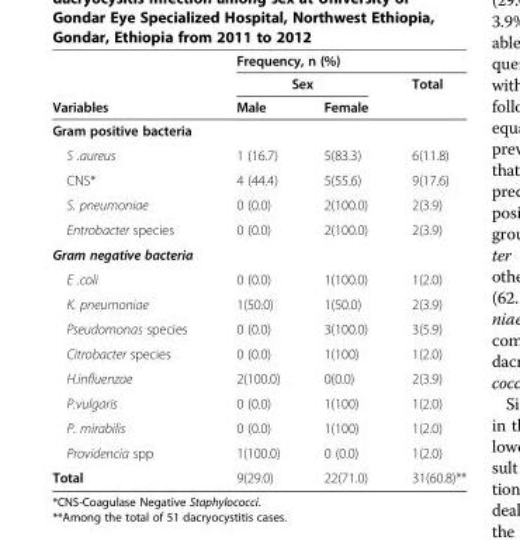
<table><thead><tr><td rowspan="3">Variables</td><td colspan="3">Frequency, n (%)</td></tr><tr><td colspan="2">Sex</td><td rowspan="2">Total</td></tr><tr><td>Male</td><td>Female</td></tr></thead><tbody><tr><td colspan="4">Gram positive bacteria</td></tr><tr><td>S .aureus</td><td>1 (16.7)</td><td>5(83.3)</td><td>6(11.8)</td></tr><tr><td>CNS*</td><td>4 (44.4)</td><td>5(55.6)</td><td>9(17.6)</td></tr><tr><td>S. pneumoniae</td><td>0 (0.0)</td><td>2(100.0)</td><td>2(3.9)</td></tr><tr><td>Entrobacter species</td><td>0 (0.0)</td><td>2(100.0)</td><td>2(3.9)</td></tr><tr><td colspan="4">Gram negative bacteria</td></tr><tr><td>E .coli</td><td>0 (0.0)</td><td>1(100.0)</td><td>1(2.0)</td></tr><tr><td>K. pneumoniae</td><td>1(50.0)</td><td>1(50.0)</td><td>2(3.9)</td></tr><tr><td>Pseudomonas species</td><td>0 (0.0)</td><td>3(100.0)</td><td>3(5.9)</td></tr><tr><td>Citrobacter species</td><td>0 (0.0)</td><td>1(100)</td><td>1(2.0)</td></tr><tr><td>H.influenzae</td><td>2(100.0)</td><td>0(0.0)</td><td>2(3.9)</td></tr><tr><td>P.vulgaris</td><td>0 (0.0)</td><td>1(100)</td><td>1(2.0)</td></tr><tr><td>P. mirabilis</td><td>0 (0.0)</td><td>1(100)</td><td>1(2.0)</td></tr><tr><td>Providencia spp</td><td>1(100.0)</td><td>0 (0.0)</td><td>1(2.0)</td></tr><tr><td>Total</td><td>9(29.0)</td><td>22(71.0)</td><td>31(60.8)**</td></tr></tbody></table>